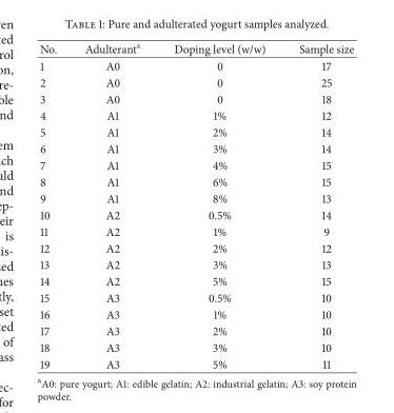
<table><thead><tr><td>No.</td><td>Adulterant<sup>a</sup></td><td>Doping level (w/w)</td><td>Sample size</td></tr></thead><tbody><tr><td>1</td><td>A0</td><td>0</td><td>17</td></tr><tr><td>2</td><td>A0</td><td>0</td><td>25</td></tr><tr><td>3</td><td>A0</td><td>0</td><td>18</td></tr><tr><td>4</td><td>A1</td><td>1%</td><td>12</td></tr><tr><td>5</td><td>A1</td><td>2%</td><td>14</td></tr><tr><td>6</td><td>A1</td><td>3%</td><td>14</td></tr><tr><td>7</td><td>A1</td><td>4%</td><td>15</td></tr><tr><td>8</td><td>A1</td><td>6%</td><td>15</td></tr><tr><td>9</td><td>A1</td><td>8%</td><td>13</td></tr><tr><td>10</td><td>A2</td><td>0.5%</td><td>14</td></tr><tr><td>11</td><td>A2</td><td>1%</td><td>9</td></tr><tr><td>12</td><td>A2</td><td>2%</td><td>12</td></tr><tr><td>13</td><td>A2</td><td>3%</td><td>13</td></tr><tr><td>14</td><td>A2</td><td>5%</td><td>15</td></tr><tr><td>15</td><td>A3</td><td>0.5%</td><td>10</td></tr><tr><td>16</td><td>A3</td><td>1%</td><td>10</td></tr><tr><td>17</td><td>A3</td><td>2%</td><td>10</td></tr><tr><td>18</td><td>A3</td><td>3%</td><td>10</td></tr><tr><td>19</td><td>A3</td><td>5%</td><td>11</td></tr></tbody></table>